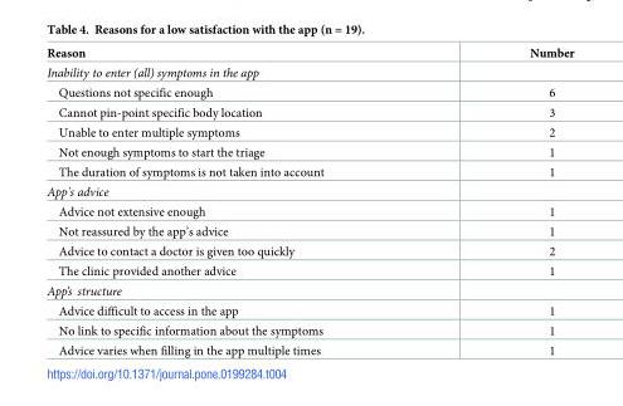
<table><thead><tr><td>Reason</td><td>Number</td></tr></thead><tbody><tr><td colspan="2">Inability to enter (all) symptoms in the app</td></tr><tr><td>Questions not specific enough</td><td>6</td></tr><tr><td>Cannot pin-point specific body location</td><td>3</td></tr><tr><td>Unable to enter multiple symptoms</td><td>2</td></tr><tr><td>Not enough symptoms to start the triage</td><td>1</td></tr><tr><td>The duration of symptoms is not taken into account</td><td>1</td></tr><tr><td colspan="2">App&#x27;s advice</td></tr><tr><td>Advice not extensive enough</td><td>1</td></tr><tr><td>Not reassured by the app’s advice</td><td>1</td></tr><tr><td>Advice to contact a doctor is given too quickly</td><td>2</td></tr><tr><td>The clinic provided another advice</td><td>1</td></tr><tr><td colspan="2">App’s structure</td></tr><tr><td>Advice difficult to access in the app</td><td>1</td></tr><tr><td>No link to specific information about the symptoms</td><td>1</td></tr><tr><td>Advice varies when filling in the app multiple times</td><td>1</td></tr></tbody></table>